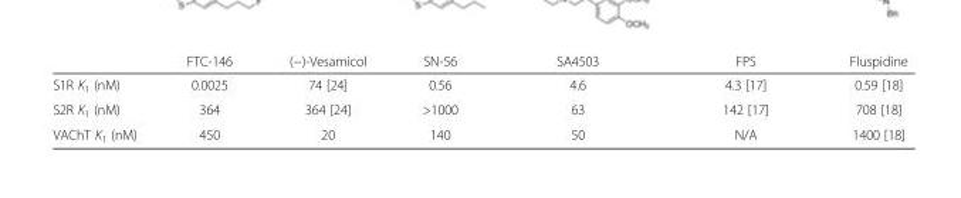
<table><thead><tr><td></td><td>FTC-146</td><td>(−)-Vesamicol</td><td>SN-56</td><td>SA4503</td><td>FPS</td><td>Fluspidine</td></tr></thead><tbody><tr><td>S1R K<sub>1</sub> (nM)</td><td>0.0025</td><td>74 [24]</td><td>0.56</td><td>4.6</td><td>4.3 [17]</td><td>0.59 [18]</td></tr><tr><td>S2R K<sub>1</sub> (nM)</td><td>364</td><td>364 [24]</td><td>&gt;1000</td><td>63</td><td>142 [17]</td><td>708 [18]</td></tr><tr><td>VAChT K<sub>1</sub> (nM)</td><td>450</td><td>20</td><td>140</td><td>50</td><td>N/A</td><td>1400 [18]</td></tr></tbody></table>